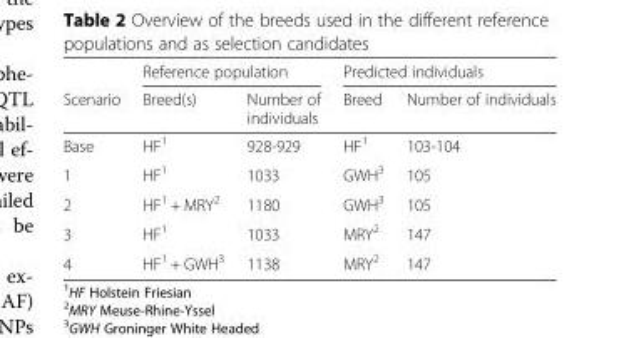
<table><thead><tr><td rowspan="2">Scenario</td><td colspan="2">Reference population</td><td colspan="2">Predicted individuals</td></tr><tr><td>Breed(s)</td><td>Number of individuals</td><td>Breed</td><td>Number of individuals</td></tr></thead><tbody><tr><td>Base</td><td>HF<sup>1</sup></td><td>928-929</td><td>HF<sup>1</sup></td><td>103-104</td></tr><tr><td>1</td><td>HF<sup>1</sup></td><td>1033</td><td>GWH<sup>3</sup></td><td>105</td></tr><tr><td>2</td><td>HF<sup>1</sup> + MRY<sup>2</sup></td><td>1180</td><td>GWH<sup>3</sup></td><td>105</td></tr><tr><td>3</td><td>HF<sup>1</sup></td><td>1033</td><td>MRY<sup>2</sup></td><td>147</td></tr><tr><td>4</td><td>HF<sup>1</sup> + GWH<sup>3</sup></td><td>1138</td><td>MRY<sup>2</sup></td><td>147</td></tr></tbody></table>